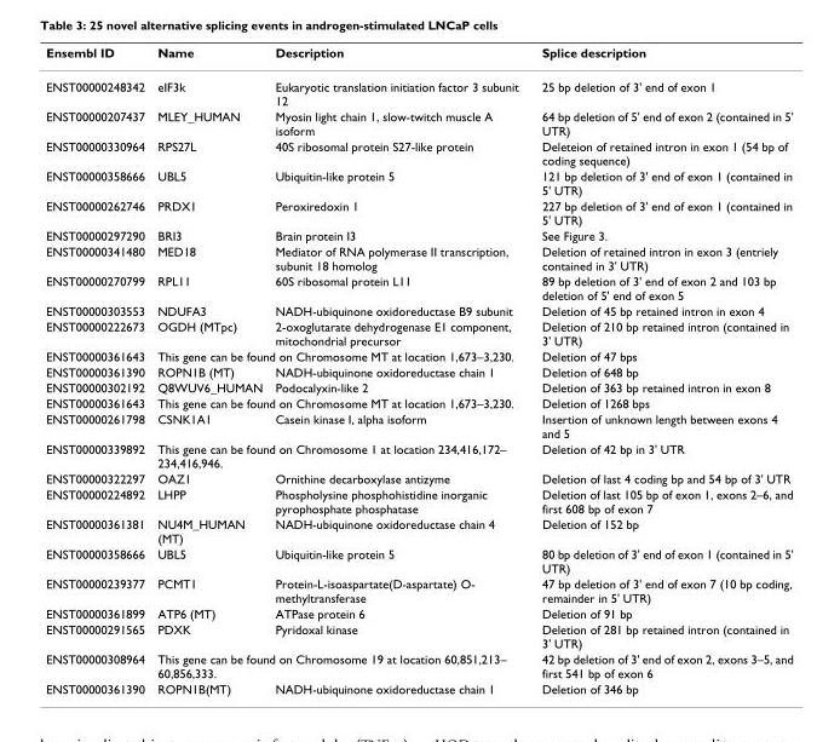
<table><thead><tr><td>Ensembl ID</td><td>Name</td><td>Description</td><td>Splice description</td></tr></thead><tbody><tr><td>ENST00000248342</td><td>eIF3k</td><td>Eukaryotic translation initiation factor 3 subunit 12</td><td>25 bp deletion of 3&#x27; end of exon 1</td></tr><tr><td>ENST00000207437</td><td>MLEY_HUMAN</td><td>Myosin light chain 1, slow-twitch muscle A isoform</td><td>64 bp deletion of 5&#x27; end of exon 2 (contained in 5&#x27; UTR)</td></tr><tr><td>ENST00000330964</td><td>RPS27L</td><td>40S ribosomal protein S27-like protein</td><td>Deleteion of retained intron in exon 1 (54 bp of coding sequence)</td></tr><tr><td>ENST00000358666</td><td>UBL5</td><td>Ubiquitin-like protein 5</td><td>121 bp deletion of 3&#x27; end of exon 1 (contained in 5&#x27; UTR)</td></tr><tr><td>ENST00000262746</td><td>PRDX1</td><td>Peroxiredoxin 1</td><td>227 bp deletion of 3&#x27; end of exon 1 (contained in 5&#x27; UTR)</td></tr><tr><td>ENST00000297290</td><td>BRI3</td><td>Brain protein I3</td><td>See Figure 3.</td></tr><tr><td>ENST00000341480</td><td>MED18</td><td>Mediator of RNA polymerase II transcription, subunit 18 homolog</td><td>Deletion of retained intron in exon 3 (entriely contained in 3&#x27; UTR)</td></tr><tr><td>ENST00000270799</td><td>RPL11</td><td>60S ribosomal protein L11</td><td>89 bp deletion of 3&#x27; end of exon 2 and 103 bp deletion of 5&#x27; end of exon 5</td></tr><tr><td>ENST00000303553</td><td>NDUFA3</td><td>NADH-ubiquinone oxidoreductase B9 subunit</td><td>Deletion of 45 bp retained intron in exon 4</td></tr><tr><td>ENST00000222673</td><td>OGDH (MTpc)</td><td>2-oxoglutarate dehydrogenase E1 component, mitochondrial precursor</td><td>Deletion of 210 bp retained intron (contained in 3&#x27; UTR)</td></tr><tr><td>ENST00000361643</td><td colspan="2">This gene can be found on Chromosome MT at location 1,673–3,230.</td><td>Deletion of 47 bps</td></tr><tr><td>ENST00000361390</td><td>ROPN1B (MT)</td><td>NADH-ubiquinone oxidoreductase chain 1</td><td>Deletion of 648 bp</td></tr><tr><td>ENST00000302192</td><td>Q8WUV6_HUMAN</td><td>Podocalyxin-like 2</td><td>Deletion of 363 bp retained intron in exon 8</td></tr><tr><td>ENST00000361643</td><td colspan="2">This gene can be found on Chromosome MT at location 1,673–3,230.</td><td>Deletion of 1268 bps</td></tr><tr><td>ENST00000261798</td><td>CSNK1A1</td><td>Casein kinase I, alpha isoform</td><td>Insertion of unknown length between exons 4 and 5</td></tr><tr><td>ENST00000339892</td><td colspan="2">This gene can be found on Chromosome 1 at location 234,416,172– 234,416,946.</td><td>Deletion of 42 bp in 3&#x27; UTR</td></tr><tr><td>ENST00000322297</td><td>OAZ1</td><td>Ornithine decarboxylase antizyme</td><td>Deletion of last 4 coding bp and 54 bp of 3&#x27; UTR</td></tr><tr><td>ENST00000224892</td><td>LHPP</td><td>Phospholysine phosphohistidine inorganic pyrophosphate phosphatase</td><td>Deletion of last 105 bp of exon 1, exons 2–6, and first 608 bp of exon 7</td></tr><tr><td>ENST00000361381</td><td>NU4M_HUMAN (MT)</td><td>NADH-ubiquinone oxidoreductase chain 4</td><td>Deletion of 152 bp</td></tr><tr><td>ENST00000358666</td><td>UBL5</td><td>Ubiquitin-like protein 5</td><td>80 bp deletion of 3&#x27; end of exon 1 (contained in 5&#x27; UTR)</td></tr><tr><td>ENST00000239377</td><td>PCMT1</td><td>Protein-L-isoaspartate(D-aspartate) O- methyltransferase</td><td>47 bp deletion of 3&#x27; end of exon 7 (10 bp coding, remainder in 5&#x27; UTR)</td></tr><tr><td>ENST00000361899</td><td>ATP6 (MT)</td><td>ATPase protein 6</td><td>Deletion of 91 bp</td></tr><tr><td>ENST00000291565</td><td>PDXK</td><td>Pyridoxal kinase</td><td>Deletion of 281 bp retained intron (contained in 3&#x27; UTR)</td></tr><tr><td>ENST00000308964</td><td colspan="2">This gene can be found on Chromosome 19 at location 60,851,213– 60,856,333.</td><td>42 bp deletion of 3&#x27; end of exon 2, exons 3–5, and first 541 bp of exon 6</td></tr><tr><td>ENST00000361390</td><td>ROPN1B(MT)</td><td>NADH-ubiquinone oxidoreductase chain 1</td><td>Deletion of 346 bp</td></tr></tbody></table>